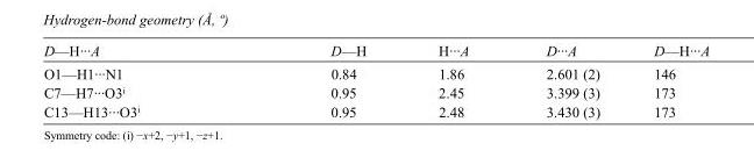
<table><tbody><tr><td>D—H···A</td><td>D—H</td><td>H···A</td><td>D···A</td><td>D—H···A</td></tr><tr><td>O1—H1···N1</td><td>0.84</td><td>1.86</td><td>2.601 (2)</td><td>146</td></tr><tr><td>C7—H7···O3<sup>i</sup></td><td>0.95</td><td>2.45</td><td>3.399 (3)</td><td>173</td></tr><tr><td>C13—H13···O3<sup>i</sup></td><td>0.95</td><td>2.48</td><td>3.430 (3)</td><td>173</td></tr></tbody></table>